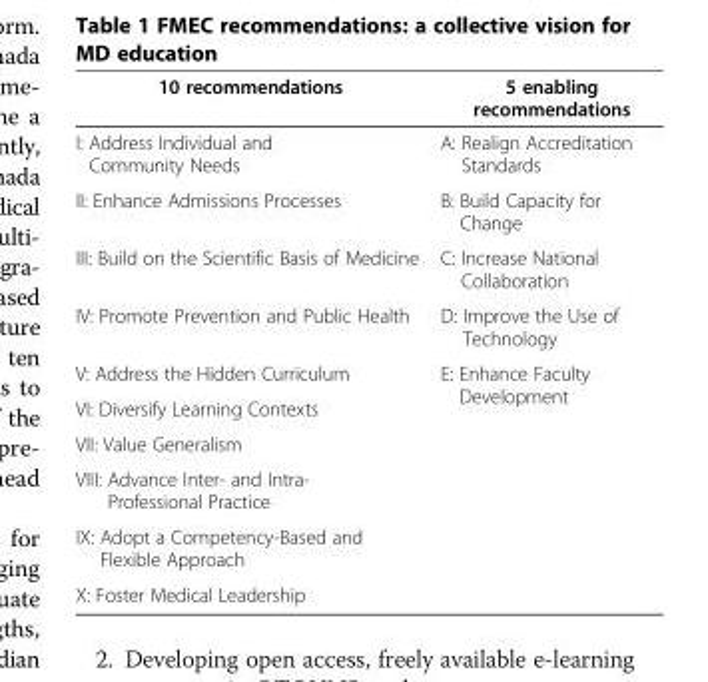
<table><thead><tr><td>10 recommendations</td><td>5 enabling recommendations</td></tr></thead><tbody><tr><td>I: Address Individual and Community Needs</td><td>A: Realign Accreditation Standards</td></tr><tr><td>II: Enhance Admissions Processes</td><td>B: Build Capacity for Change</td></tr><tr><td>III: Build on the Scientific Basis of Medicine</td><td>C: Increase National Collaboration</td></tr><tr><td>IV: Promote Prevention and Public Health</td><td>D: Improve the Use of Technology</td></tr><tr><td>V: Address the Hidden Curriculum</td><td rowspan="6">E: Enhance Faculty Development</td></tr><tr><td>VI: Diversify Learning Contexts</td></tr><tr><td>VII: Value Generalism</td></tr><tr><td>VIII: Advance Inter- and Intra- Professional Practice</td></tr><tr><td>IX: Adopt a Competency-Based and Flexible Approach</td></tr><tr><td>X: Foster Medical Leadership</td></tr></tbody></table>